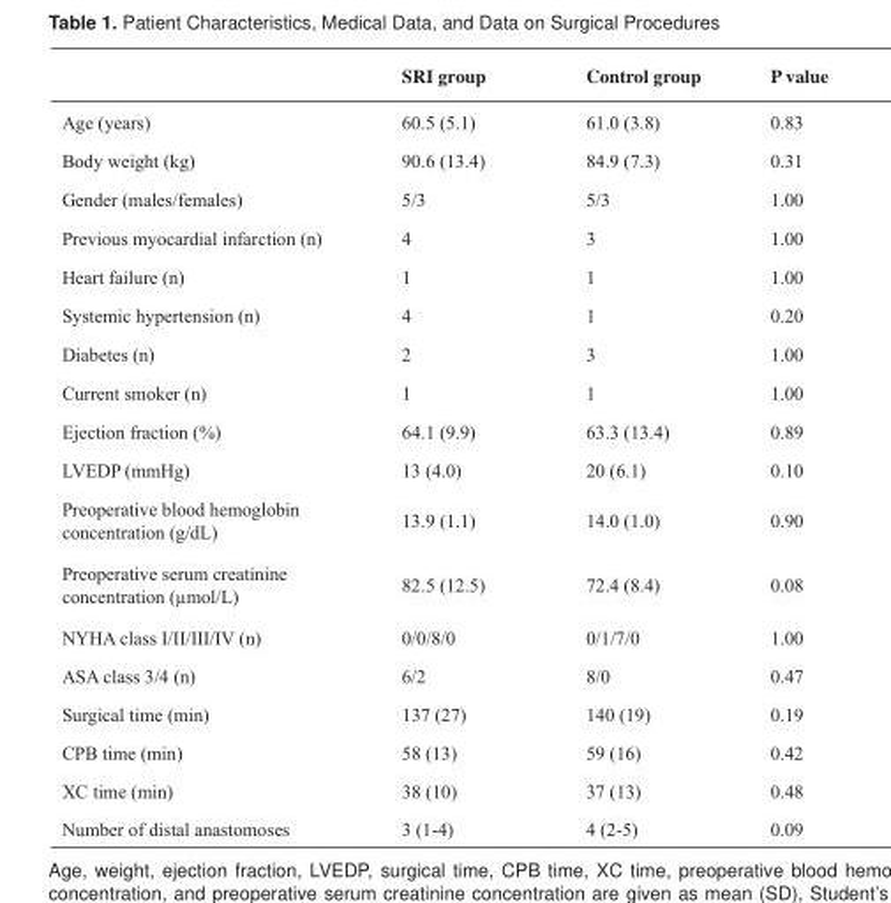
<table><thead><tr><td></td><td>SRI group</td><td>Control group</td><td>P value</td></tr></thead><tbody><tr><td>Age (years)</td><td>60.5 (5.1)</td><td>61.0 (3.8)</td><td>0.83</td></tr><tr><td>Body weight (kg)</td><td>90.6 (13.4)</td><td>84.9 (7.3)</td><td>0.31</td></tr><tr><td>Gender (males/females)</td><td>5/3</td><td>5/3</td><td>1.00</td></tr><tr><td>Previous myocardial infarction (n)</td><td>4</td><td>3</td><td>1.00</td></tr><tr><td>Heart failure (n)</td><td>1</td><td>1</td><td>1.00</td></tr><tr><td>Systemic hypertension (n)</td><td>4</td><td>1</td><td>0.20</td></tr><tr><td>Diabetes (n)</td><td>2</td><td>3</td><td>1.00</td></tr><tr><td>Current smoker (n)</td><td>1</td><td>1</td><td>1.00</td></tr><tr><td>Ejection fraction (%)</td><td>64.1 (9.9)</td><td>63.3 (13.4)</td><td>0.89</td></tr><tr><td>LVEDP (mmHg)</td><td>13 (4.0)</td><td>20 (6.1)</td><td>0.10</td></tr><tr><td>Preoperative blood hemoglobin concentration (g/dL)</td><td>13.9 (1.1)</td><td>14.0 (1.0)</td><td>0.90</td></tr><tr><td>Preoperative serum creatinine concentration (μmol/L)</td><td>82.5 (12.5)</td><td>72.4 (8.4)</td><td>0.08</td></tr><tr><td>NYHA class I/II/III/IV (n)</td><td>0/0/8/0</td><td>0/1/7/0</td><td>1.00</td></tr><tr><td>ASA class 3/4 (n)</td><td>6/2</td><td>8/0</td><td>0.47</td></tr><tr><td>Surgical time (min)</td><td>137 (27)</td><td>140 (19)</td><td>0.19</td></tr><tr><td>CPB time (min)</td><td>58 (13)</td><td>59 (16)</td><td>0.42</td></tr><tr><td>XC time (min)</td><td>38 (10)</td><td>37 (13)</td><td>0.48</td></tr><tr><td>Number of distal anastomoses</td><td>3 (1-4)</td><td>4 (2-5)</td><td>0.09</td></tr></tbody></table>